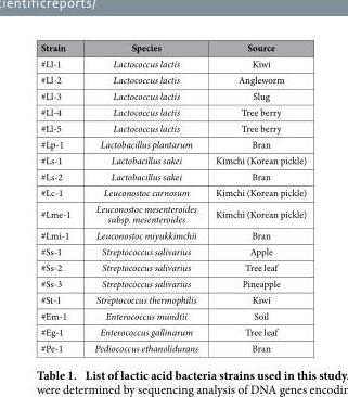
<table><thead><tr><td>Strain</td><td>Species</td><td>Source</td></tr></thead><tbody><tr><td>#Ll-1</td><td>Lactococcus lactis</td><td>Kiwi</td></tr><tr><td>#Ll-2</td><td>Lactococcus lactis</td><td>Angleworm</td></tr><tr><td>#Ll-3</td><td>Lactococcus lactis</td><td>Slug</td></tr><tr><td>#Ll-4</td><td>Lactococcus lactis</td><td>Tree berry</td></tr><tr><td>#Ll-5</td><td>Lactococcus lactis</td><td>Tree berry</td></tr><tr><td>#Lp-1</td><td>Lactobacillus plantarum</td><td>Bran</td></tr><tr><td>#Ls-1</td><td>Lactobacillus sakei</td><td>Kimchi (Korean pickle)</td></tr><tr><td>#Ls-2</td><td>Lactobacillus sakei</td><td>Bran</td></tr><tr><td>#Lc-1</td><td>Leuconostoc carnosum</td><td>Kimchi (Korean pickle)</td></tr><tr><td>#Lme-1</td><td>Leuconostoc mesenteroides subsp. mesenteroides</td><td>Kimchi (Korean pickle)</td></tr><tr><td>#Lmi-1</td><td>Leuconostoc miyukkimchii</td><td>Bran</td></tr><tr><td>#Ss-1</td><td>Streptococcus salivarius</td><td>Apple</td></tr><tr><td>#Ss-2</td><td>Streptococcus salivarius</td><td>Tree leaf</td></tr><tr><td>#Ss-3</td><td>Streptococcus salivarius</td><td>Pineapple</td></tr><tr><td>#St-1</td><td>Streptococcus thermophilis</td><td>Kiwi</td></tr><tr><td>#Em-1</td><td>Enterococcus mundtii</td><td>Soil</td></tr><tr><td>#Eg-1</td><td>Enterococcus gallinarum</td><td>Tree leaf</td></tr><tr><td>#Pe-1</td><td>Pediococcus ethanolidurans</td><td>Bran</td></tr></tbody></table>